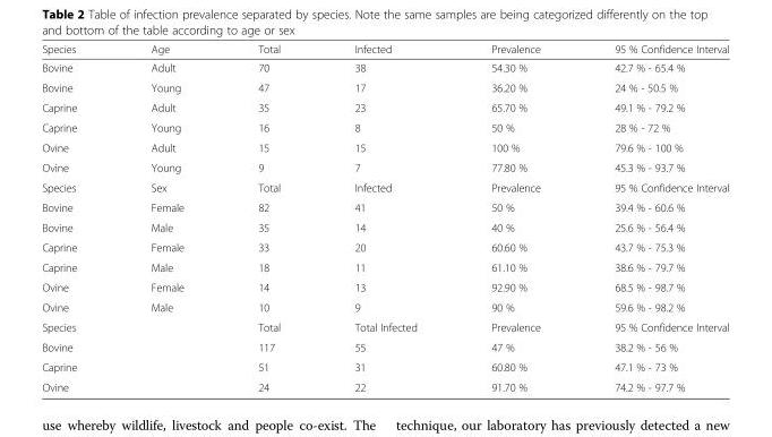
<table><thead><tr><td>Species</td><td>Age</td><td>Total</td><td>Infected</td><td>Prevalence</td><td>95 % Confidence Interval</td></tr></thead><tbody><tr><td>Bovine</td><td>Adult</td><td>70</td><td>38</td><td>54.30 %</td><td>42.7 % - 65.4 %</td></tr><tr><td>Bovine</td><td>Young</td><td>47</td><td>17</td><td>36.20 %</td><td>24 % - 50.5 %</td></tr><tr><td>Caprine</td><td>Adult</td><td>35</td><td>23</td><td>65.70 %</td><td>49.1 % - 79.2 %</td></tr><tr><td>Caprine</td><td>Young</td><td>16</td><td>8</td><td>50 %</td><td>28 % - 72 %</td></tr><tr><td>Ovine</td><td>Adult</td><td>15</td><td>15</td><td>100 %</td><td>79.6 % - 100 %</td></tr><tr><td>Ovine</td><td>Young</td><td>9</td><td>7</td><td>77.80 %</td><td>45.3 % - 93.7 %</td></tr><tr><td>Species</td><td>Sex</td><td>Total</td><td>Infected</td><td>Prevalence</td><td>95 % Confidence Interval</td></tr><tr><td>Bovine</td><td>Female</td><td>82</td><td>41</td><td>50 %</td><td>39.4 % - 60.6 %</td></tr><tr><td>Bovine</td><td>Male</td><td>35</td><td>14</td><td>40 %</td><td>25.6 % - 56.4 %</td></tr><tr><td>Caprine</td><td>Female</td><td>33</td><td>20</td><td>60.60 %</td><td>43.7 % - 75.3 %</td></tr><tr><td>Caprine</td><td>Male</td><td>18</td><td>11</td><td>61.10 %</td><td>38.6 % - 79.7 %</td></tr><tr><td>Ovine</td><td>Female</td><td>14</td><td>13</td><td>92.90 %</td><td>68.5 % - 98.7 %</td></tr><tr><td>Ovine</td><td>Male</td><td>10</td><td>9</td><td>90 %</td><td>59.6 % - 98.2 %</td></tr><tr><td>Species</td><td></td><td>Total</td><td>Total Infected</td><td>Prevalence</td><td>95 % Confidence Interval</td></tr><tr><td>Bovine</td><td></td><td>117</td><td>55</td><td>47 %</td><td>38.2 % - 56 %</td></tr><tr><td>Caprine</td><td></td><td>51</td><td>31</td><td>60.80 %</td><td>47.1 % - 73 %</td></tr><tr><td>Ovine</td><td></td><td>24</td><td>22</td><td>91.70 %</td><td>74.2 % - 97.7 %</td></tr></tbody></table>